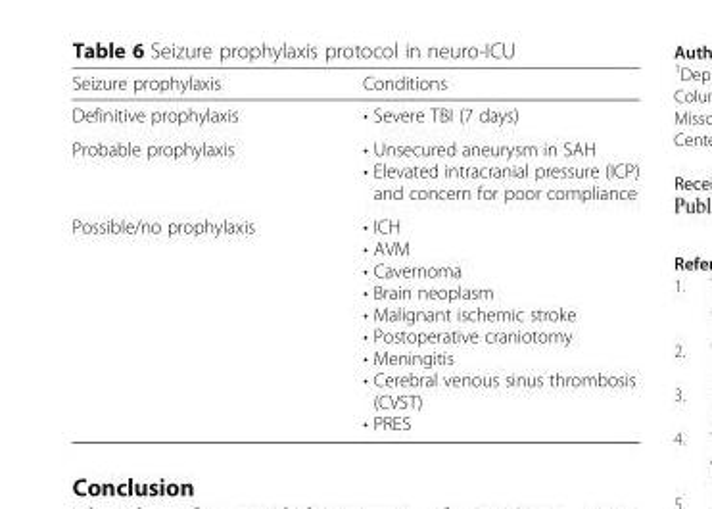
<table><thead><tr><td>Seizure prophylaxis</td><td>Conditions</td></tr></thead><tbody><tr><td>Definitive prophylaxis</td><td>• Severe TBI (7 days)</td></tr><tr><td>Probable prophylaxis</td><td>• Unsecured aneurysm in SAH • Elevated intracranial pressure (ICP) and concern for poor compliance</td></tr><tr><td>Possible/no prophylaxis</td><td>• ICH • AVM • Cavernoma • Brain neoplasm • Malignant ischemic stroke • Postoperative craniotomy • Meningitis • Cerebral venous sinus thrombosis (CVST) • PRES</td></tr></tbody></table>